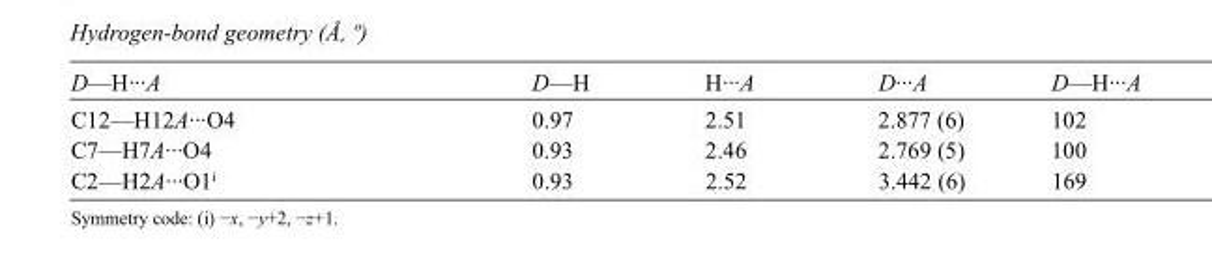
<table><tbody><tr><td>D—H···A</td><td>D—H</td><td>H···A</td><td>D···A</td><td>D—H···A</td></tr><tr><td>C12—H12A···O4</td><td>0.97</td><td>2.51</td><td>2.877 (6)</td><td>102</td></tr><tr><td>C7—H7A···O4</td><td>0.93</td><td>2.46</td><td>2.769 (5)</td><td>100</td></tr><tr><td>C2—H2A···O1<sup>i</sup></td><td>0.93</td><td>2.52</td><td>3.442 (6)</td><td>169</td></tr></tbody></table>